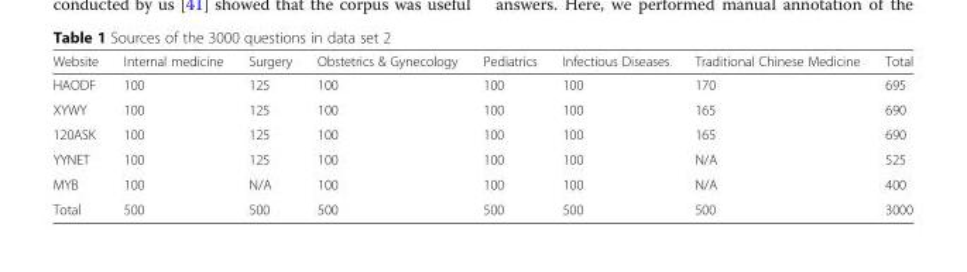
<table><thead><tr><td>Website</td><td>Internal medicine</td><td>Surgery</td><td>Obstetrics &amp; Gynecology</td><td>Pediatrics</td><td>Infectious Diseases</td><td>Traditional Chinese Medicine</td><td>Total</td></tr></thead><tbody><tr><td>HAODF</td><td>100</td><td>125</td><td>100</td><td>100</td><td>100</td><td>170</td><td>695</td></tr><tr><td>XYWY</td><td>100</td><td>125</td><td>100</td><td>100</td><td>100</td><td>165</td><td>690</td></tr><tr><td>120ASK</td><td>100</td><td>125</td><td>100</td><td>100</td><td>100</td><td>165</td><td>690</td></tr><tr><td>YYNET</td><td>100</td><td>125</td><td>100</td><td>100</td><td>100</td><td>N/A</td><td>525</td></tr><tr><td>MYB</td><td>100</td><td>N/A</td><td>100</td><td>100</td><td>100</td><td>N/A</td><td>400</td></tr><tr><td>Total</td><td>500</td><td>500</td><td>500</td><td>500</td><td>500</td><td>500</td><td>3000</td></tr></tbody></table>